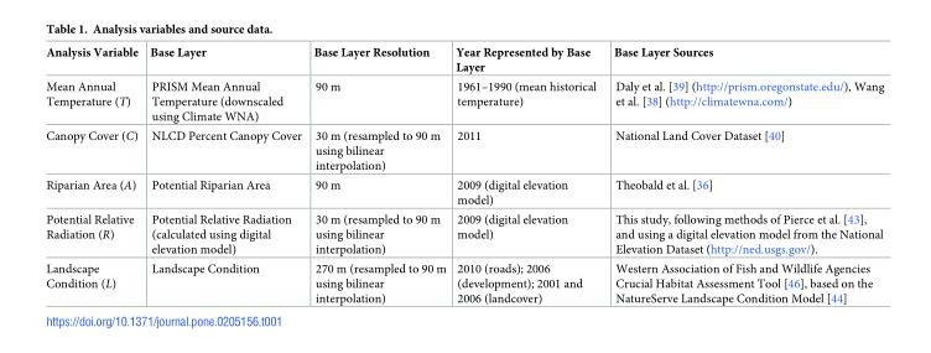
<table><thead><tr><td>Analysis Variable</td><td>Base Layer</td><td>Base Layer Resolution</td><td>Year Represented by Base Layer</td><td>Base Layer Sources</td></tr></thead><tbody><tr><td>Mean Annual Temperature (T)</td><td>PRISM Mean Annual Temperature (downscaled using Climate WNA)</td><td>90 m</td><td>1961–1990 (mean historical temperature)</td><td>Daly et al. [39] (http://prism.oregonstate.edu/), Wang et al. [38] (http://climatewna.com/)</td></tr><tr><td>Canopy Cover (C)</td><td>NLCD Percent Canopy Cover</td><td>30 m (resampled to 90 m using bilinear interpolation)</td><td>2011</td><td>National Land Cover Dataset [40]</td></tr><tr><td>Riparian Area (A)</td><td>Potential Riparian Area</td><td>90 m</td><td>2009 (digital elevation model)</td><td>Theobald et al. [36]</td></tr><tr><td>Potential Relative Radiation (R)</td><td>Potential Relative Radiation (calculated using digital elevation model)</td><td>30 m (resampled to 90 m using bilinear interpolation)</td><td>2009 (digital elevation model)</td><td>This study, following methods of Pierce et al. [43], and using a digital elevation model from the National Elevation Dataset (http://ned.usgs.gov/).</td></tr><tr><td>Landscape Condition (L)</td><td>Landscape Condition</td><td>270 m (resampled to 90 m using bilinear interpolation)</td><td>2010 (roads); 2006 (development); 2001 and 2006 (landcover)</td><td>Western Association of Fish and Wildlife Agencies Crucial Habitat Assessment Tool [46], based on the NatureServe Landscape Condition Model [44]</td></tr></tbody></table>